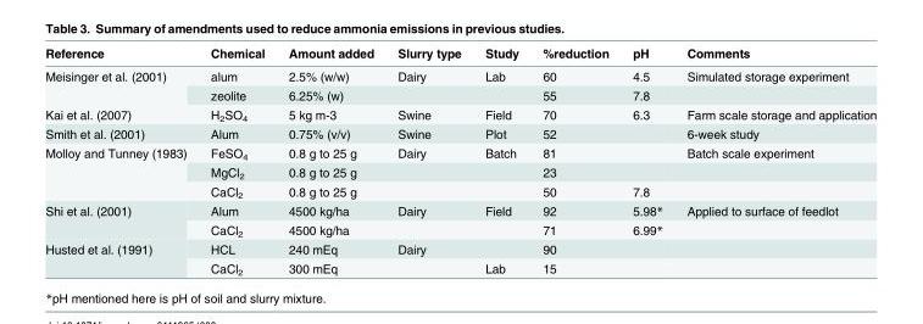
<table><thead><tr><td>Reference</td><td>Chemical</td><td>Amount added</td><td>Slurry type</td><td>Study</td><td>%reduction</td><td>pH</td><td>Comments</td></tr></thead><tbody><tr><td rowspan="2">Meisinger et al. (2001)</td><td>alum</td><td>2.5% (w/w)</td><td>Dairy</td><td>Lab</td><td>60</td><td>4.5</td><td>Simulated storage experiment</td></tr><tr><td>zeolite</td><td>6.25% (w)</td><td></td><td></td><td>55</td><td>7.8</td><td></td></tr><tr><td>Kai et al. (2007)</td><td>H<sub>2</sub>SO<sub>4</sub></td><td>5 kg m-3</td><td>Swine</td><td>Field</td><td>70</td><td>6.3</td><td>Farm scale storage and application</td></tr><tr><td>Smith et al. (2001)</td><td>Alum</td><td>0.75% (v/v)</td><td>Swine</td><td>Plot</td><td>52</td><td></td><td>6-week study</td></tr><tr><td rowspan="3">Molloy and Tunney (1983)</td><td>FeSO<sub>4</sub></td><td>0.8 g to 25 g</td><td>Dairy</td><td>Batch</td><td>81</td><td></td><td>Batch scale experiment</td></tr><tr><td>MgCl<sub>2</sub></td><td>0.8 g to 25 g</td><td></td><td></td><td>23</td><td></td><td></td></tr><tr><td>CaCl<sub>2</sub></td><td>0.8 g to 25 g</td><td></td><td></td><td>50</td><td>7.8</td><td></td></tr><tr><td rowspan="2">Shi et al. (2001)</td><td>Alum</td><td>4500 kg/ha</td><td>Dairy</td><td>Field</td><td>92</td><td>5.98*</td><td>Applied to surface of feedlot</td></tr><tr><td>CaCl<sub>2</sub></td><td>4500 kg/ha</td><td></td><td></td><td>71</td><td>6.99*</td><td></td></tr><tr><td rowspan="2">Husted et al. (1991)</td><td>HCL</td><td>240 mEq</td><td>Dairy</td><td></td><td>90</td><td></td><td></td></tr><tr><td>CaCl<sub>2</sub></td><td>300 mEq</td><td></td><td>Lab</td><td>15</td><td></td><td></td></tr></tbody></table>